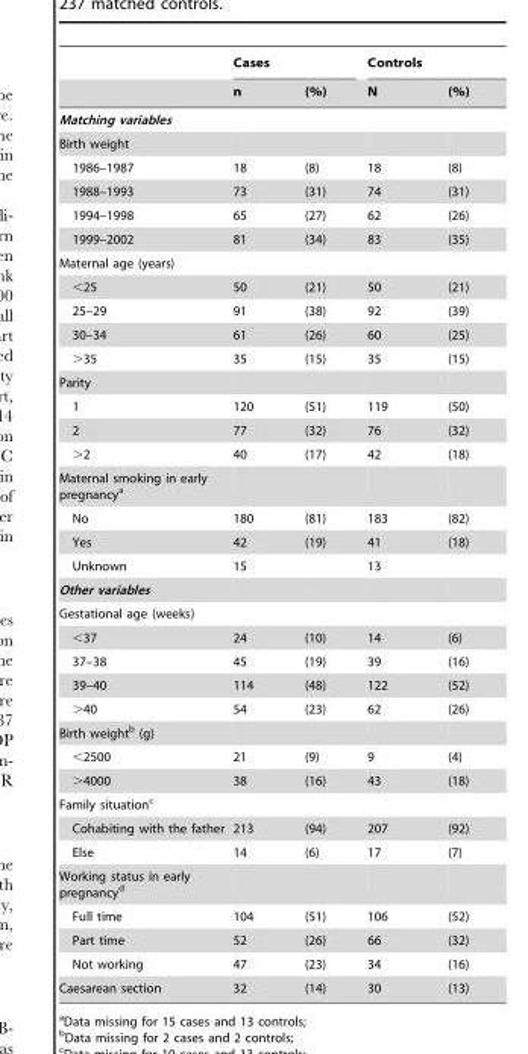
<table><thead><tr><td rowspan="2"></td><td colspan="2">Cases</td><td colspan="2">Controls</td></tr><tr><td>n</td><td>(%)</td><td>N</td><td>(%)</td></tr></thead><tbody><tr><td colspan="5">Matching variables</td></tr><tr><td colspan="5">Birth weight</td></tr><tr><td>1986–1987</td><td>18</td><td>(8)</td><td>18</td><td>(8)</td></tr><tr><td>1988–1993</td><td>73</td><td>(31)</td><td>74</td><td>(31)</td></tr><tr><td>1994–1998</td><td>65</td><td>(27)</td><td>62</td><td>(26)</td></tr><tr><td>1999–2002</td><td>81</td><td>(34)</td><td>83</td><td>(35)</td></tr><tr><td colspan="5">Maternal age (years)</td></tr><tr><td>&lt;25</td><td>50</td><td>(21)</td><td>50</td><td>(21)</td></tr><tr><td>25–29</td><td>91</td><td>(38)</td><td>92</td><td>(39)</td></tr><tr><td>30–34</td><td>61</td><td>(26)</td><td>60</td><td>(25)</td></tr><tr><td>&gt;35</td><td>35</td><td>(15)</td><td>35</td><td>(15)</td></tr><tr><td colspan="5">Parity</td></tr><tr><td>1</td><td>120</td><td>(51)</td><td>119</td><td>(50)</td></tr><tr><td>2</td><td>77</td><td>(32)</td><td>76</td><td>(32)</td></tr><tr><td>&gt;2</td><td>40</td><td>(17)</td><td>42</td><td>(18)</td></tr><tr><td colspan="5">Maternal smoking in early pregnancy<sup>a</sup></td></tr><tr><td>No</td><td>180</td><td>(81)</td><td>183</td><td>(82)</td></tr><tr><td>Yes</td><td>42</td><td>(19)</td><td>41</td><td>(18)</td></tr><tr><td>Unknown</td><td>15</td><td></td><td>13</td><td></td></tr><tr><td colspan="5">Other variables</td></tr><tr><td colspan="5">Gestational age (weeks)</td></tr><tr><td>&lt;37</td><td>24</td><td>(10)</td><td>14</td><td>(6)</td></tr><tr><td>37–38</td><td>45</td><td>(19)</td><td>39</td><td>(16)</td></tr><tr><td>39–40</td><td>114</td><td>(48)</td><td>122</td><td>(52)</td></tr><tr><td>&gt;40</td><td>54</td><td>(23)</td><td>62</td><td>(26)</td></tr><tr><td colspan="5">Birth weight<sup>b</sup> (g)</td></tr><tr><td>&lt;2500</td><td>21</td><td>(9)</td><td>9</td><td>(4)</td></tr><tr><td>&gt;4000</td><td>38</td><td>(16)</td><td>43</td><td>(18)</td></tr><tr><td colspan="5">Family situation<sup>c</sup></td></tr><tr><td>Cohabiting with the father</td><td>213</td><td>(94)</td><td>207</td><td>(92)</td></tr><tr><td>Else</td><td>14</td><td>(6)</td><td>17</td><td>(7)</td></tr><tr><td colspan="5">Working status in early pregnancy<sup>d</sup></td></tr><tr><td>Full time</td><td>104</td><td>(51)</td><td>106</td><td>(52)</td></tr><tr><td>Part time</td><td>52</td><td>(26)</td><td>66</td><td>(32)</td></tr><tr><td>Not working</td><td>47</td><td>(23)</td><td>34</td><td>(16)</td></tr><tr><td>Caesarean section</td><td>32</td><td>(14)</td><td>30</td><td>(13)</td></tr></tbody></table>